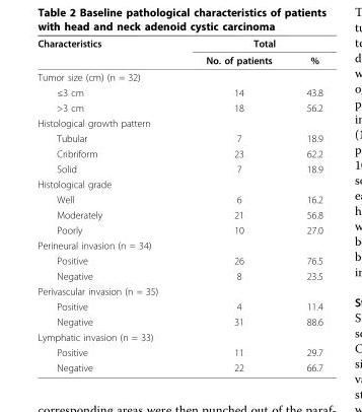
<table><thead><tr><td rowspan="2">Characteristics</td><td colspan="2">Total</td></tr><tr><td>No. of patients</td><td>%</td></tr></thead><tbody><tr><td colspan="3">Tumor size (cm) (n = 32)</td></tr><tr><td>≤3 cm</td><td>14</td><td>43.8</td></tr><tr><td>&gt;3 cm</td><td>18</td><td>56.2</td></tr><tr><td colspan="3">Histological growth pattern</td></tr><tr><td>Tubular</td><td>7</td><td>18.9</td></tr><tr><td>Cribriform</td><td>23</td><td>62.2</td></tr><tr><td>Solid</td><td>7</td><td>18.9</td></tr><tr><td colspan="3">Histological grade</td></tr><tr><td>Well</td><td>6</td><td>16.2</td></tr><tr><td>Moderately</td><td>21</td><td>56.8</td></tr><tr><td>Poorly</td><td>10</td><td>27.0</td></tr><tr><td colspan="3">Perineural invasion (n = 34)</td></tr><tr><td>Positive</td><td>26</td><td>76.5</td></tr><tr><td>Negative</td><td>8</td><td>23.5</td></tr><tr><td colspan="3">Perivascular invasion (n = 35)</td></tr><tr><td>Positive</td><td>4</td><td>11.4</td></tr><tr><td>Negative</td><td>31</td><td>88.6</td></tr><tr><td colspan="3">Lymphatic invasion (n = 33)</td></tr><tr><td>Positive</td><td>11</td><td>29.7</td></tr><tr><td>Negative</td><td>22</td><td>66.7</td></tr></tbody></table>